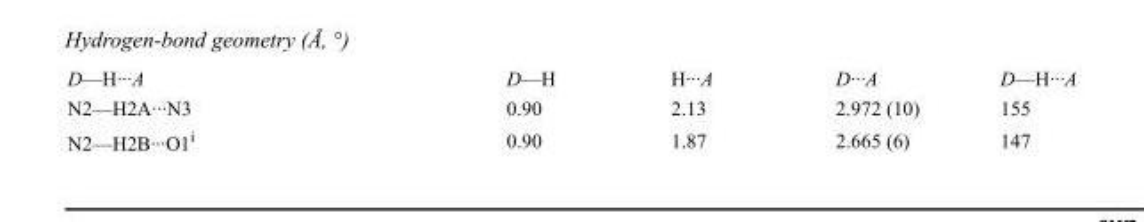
<table><tbody><tr><td>D—H···A</td><td>D—H</td><td>H···A</td><td>D···A</td><td>D—H···A</td></tr><tr><td>N2—H2A···N3</td><td>0.90</td><td>2.13</td><td>2.972 (10)</td><td>155</td></tr><tr><td>N2—H2B···O1<sup>i</sup></td><td>0.90</td><td>1.87</td><td>2.665 (6)</td><td>147</td></tr></tbody></table>